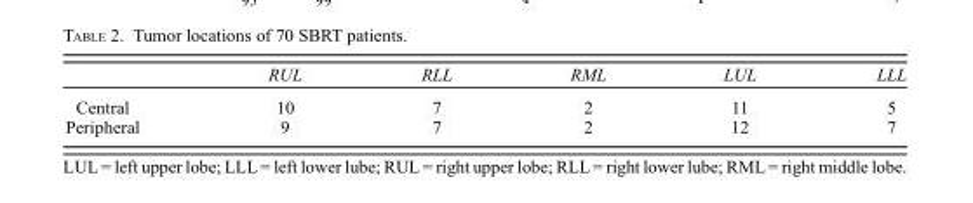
<table><thead><tr><td></td><td>RUL</td><td>RLL</td><td>RML</td><td>LUL</td><td>LLL</td></tr></thead><tbody><tr><td>Central</td><td>10</td><td>7</td><td>2</td><td>11</td><td>5</td></tr><tr><td>Peripheral</td><td>9</td><td>7</td><td>2</td><td>12</td><td>7</td></tr></tbody></table>